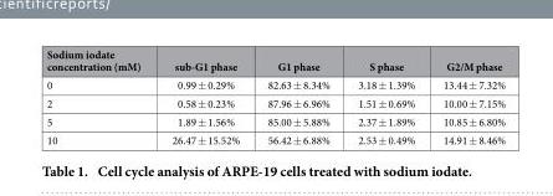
<table><thead><tr><td>Sodium iodate concentration (mM)</td><td>sub-G1 phase</td><td>G1 phase</td><td>S phase</td><td>G2/M phase</td></tr></thead><tbody><tr><td>0</td><td>0.99 ± 0.29%</td><td>82.63 ± 8.34%</td><td>3.18 ± 1.39%</td><td>13.44 ± 7.32%</td></tr><tr><td>2</td><td>0.58 ± 0.23%</td><td>87.96 ± 6.96%</td><td>1.51 ± 0.69%</td><td>10.00 ± 7.15%</td></tr><tr><td>5</td><td>1.89 ± 1.56%</td><td>85.00 ± 5.88%</td><td>2.37 ± 1.89%</td><td>10.85 ± 6.80%</td></tr><tr><td>10</td><td>26.47 ± 15.52%</td><td>56.42 ± 6.88%</td><td>2.53 ± 0.49%</td><td>14.91 ± 8.46%</td></tr></tbody></table>